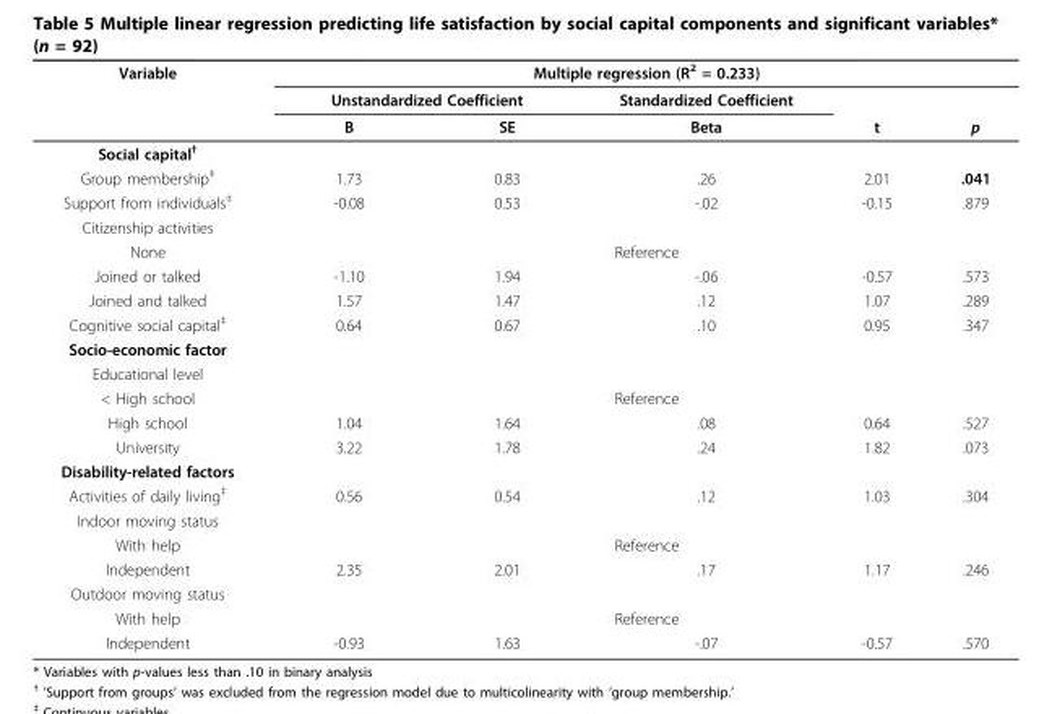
<table><thead><tr><td rowspan="3">Variable</td><td colspan="5">Multiple regression (R<sup>2</sup> = 0.233)</td></tr><tr><td colspan="2">Unstandardized Coefficient</td><td rowspan="2">Standardized Coefficient Beta</td><td rowspan="2">t</td><td rowspan="2">p</td></tr><tr><td>B</td><td>SE</td></tr></thead><tbody><tr><td colspan="6">Social capital<sup>†</sup></td></tr><tr><td>Group membership<sup>‡</sup></td><td>1.73</td><td>0.83</td><td>.26</td><td>2.01</td><td>.041</td></tr><tr><td>Support from individuals<sup>‡</sup></td><td>-0.08</td><td>0.53</td><td>-.02</td><td>-0.15</td><td>.879</td></tr><tr><td colspan="6">Citizenship activities</td></tr><tr><td>None</td><td colspan="5">Reference</td></tr><tr><td>Joined or talked</td><td>-1.10</td><td>1.94</td><td>-.06</td><td>-0.57</td><td>.573</td></tr><tr><td>Joined and talked</td><td>1.57</td><td>1.47</td><td>.12</td><td>1.07</td><td>.289</td></tr><tr><td>Cognitive social capital<sup>‡</sup></td><td>0.64</td><td>0.67</td><td>.10</td><td>0.95</td><td>.347</td></tr><tr><td colspan="6">Socio-economic factor</td></tr><tr><td colspan="6">Educational level</td></tr><tr><td>&lt; High school</td><td colspan="5">Reference</td></tr><tr><td>High school</td><td>1.04</td><td>1.64</td><td>.08</td><td>0.64</td><td>.527</td></tr><tr><td>University</td><td>3.22</td><td>1.78</td><td>.24</td><td>1.82</td><td>.073</td></tr><tr><td colspan="6">Disability-related factors</td></tr><tr><td>Activities of daily living<sup>‡</sup></td><td>0.56</td><td>0.54</td><td>.12</td><td>1.03</td><td>.304</td></tr><tr><td colspan="6">Indoor moving status</td></tr><tr><td>With help</td><td colspan="5">Reference</td></tr><tr><td>Independent</td><td>2.35</td><td>2.01</td><td>.17</td><td>1.17</td><td>.246</td></tr><tr><td colspan="6">Outdoor moving status</td></tr><tr><td>With help</td><td colspan="5">Reference</td></tr><tr><td>Independent</td><td>-0.93</td><td>1.63</td><td>-.07</td><td>-0.57</td><td>.570</td></tr></tbody></table>